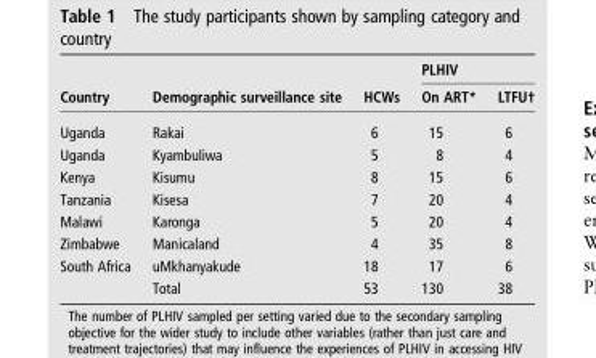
<table><thead><tr><td rowspan="2">Country</td><td rowspan="2">Demographic surveillance site</td><td rowspan="2">HCWs</td><td colspan="2">PLHIV</td></tr><tr><td>On ART*</td><td>LTFU†</td></tr></thead><tbody><tr><td>Uganda</td><td>Rakai</td><td>6</td><td>15</td><td>6</td></tr><tr><td>Uganda</td><td>Kyambuliwa</td><td>5</td><td>8</td><td>4</td></tr><tr><td>Kenya</td><td>Kisumu</td><td>8</td><td>15</td><td>6</td></tr><tr><td>Tanzania</td><td>Kisesa</td><td>7</td><td>20</td><td>4</td></tr><tr><td>Malawi</td><td>Karonga</td><td>5</td><td>20</td><td>4</td></tr><tr><td>Zimbabwe</td><td>Manicaland</td><td>4</td><td>35</td><td>8</td></tr><tr><td rowspan="2">South Africa</td><td>uMkhanyakude</td><td>18</td><td>17</td><td>6</td></tr><tr><td>Total</td><td>53</td><td>130</td><td>38</td></tr></tbody></table>